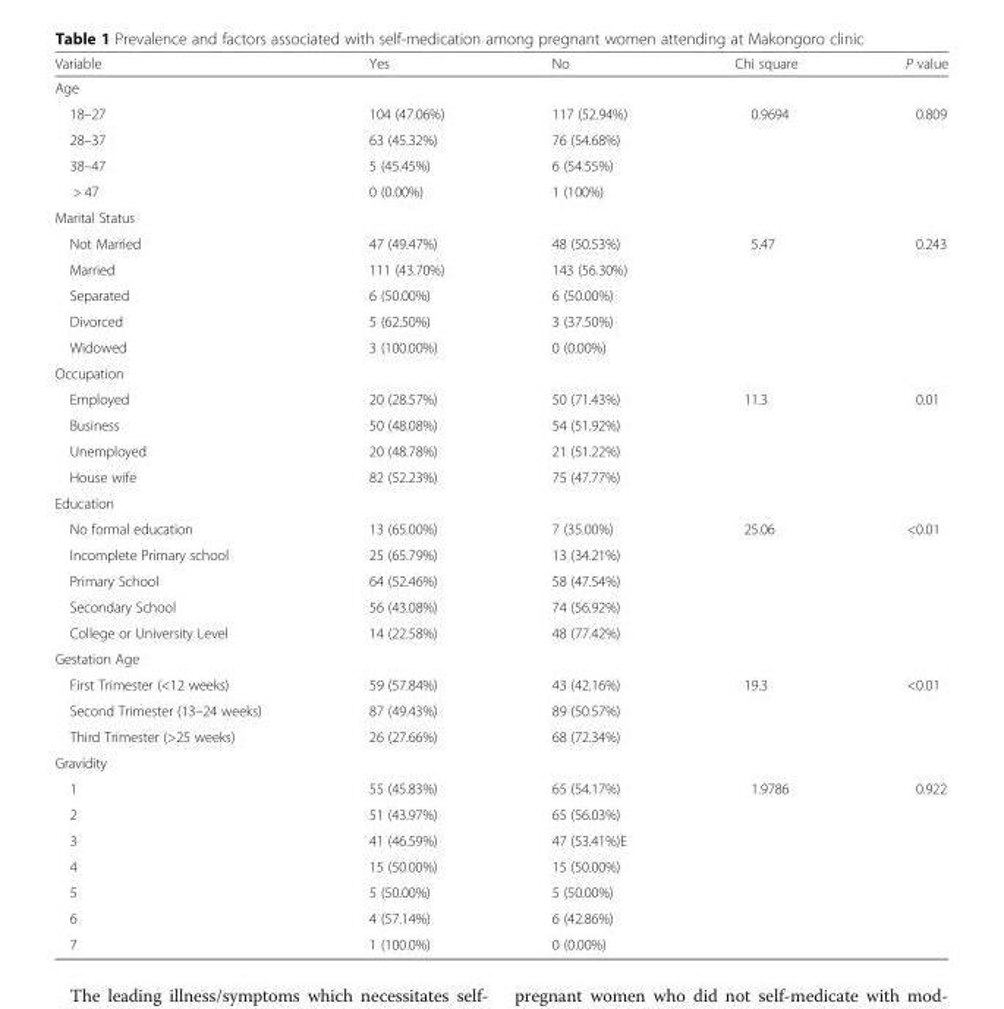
<table><thead><tr><td>Variable</td><td>Yes</td><td>No</td><td>Chi square</td><td>P value</td></tr></thead><tbody><tr><td colspan="5">Age</td></tr><tr><td>18–27</td><td>104 (47.06%)</td><td>117 (52.94%)</td><td rowspan="4">0.9694</td><td rowspan="4">0.809</td></tr><tr><td>28–37</td><td>63 (45.32%)</td><td>76 (54.68%)</td></tr><tr><td>38–47</td><td>5 (45.45%)</td><td>6 (54.55%)</td></tr><tr><td>&gt; 47</td><td>0 (0.00%)</td><td>1 (100%)</td></tr><tr><td colspan="5">Marital Status</td></tr><tr><td>Not Married</td><td>47 (49.47%)</td><td>48 (50.53%)</td><td rowspan="5">5.47</td><td rowspan="5">0.243</td></tr><tr><td>Married</td><td>111 (43.70%)</td><td>143 (56.30%)</td></tr><tr><td>Separated</td><td>6 (50.00%)</td><td>6 (50.00%)</td></tr><tr><td>Divorced</td><td>5 (62.50%)</td><td>3 (37.50%)</td></tr><tr><td>Widowed</td><td>3 (100.00%)</td><td>0 (0.00%)</td></tr><tr><td colspan="5">Occupation</td></tr><tr><td>Employed</td><td>20 (28.57%)</td><td>50 (71.43%)</td><td rowspan="4">11.3</td><td rowspan="4">0.01</td></tr><tr><td>Business</td><td>50 (48.08%)</td><td>54 (51.92%)</td></tr><tr><td>Unemployed</td><td>20 (48.78%)</td><td>21 (51.22%)</td></tr><tr><td>House wife</td><td>82 (52.23%)</td><td>75 (47.77%)</td></tr><tr><td colspan="5">Education</td></tr><tr><td>No formal education</td><td>13 (65.00%)</td><td>7 (35.00%)</td><td rowspan="5">25.06</td><td rowspan="5">&lt;0.01</td></tr><tr><td>Incomplete Primary school</td><td>25 (65.79%)</td><td>13 (34.21%)</td></tr><tr><td>Primary School</td><td>64 (52.46%)</td><td>58 (47.54%)</td></tr><tr><td>Secondary School</td><td>56 (43.08%)</td><td>74 (56.92%)</td></tr><tr><td>College or University Level</td><td>14 (22.58%)</td><td>48 (77.42%)</td></tr><tr><td colspan="5">Gestation Age</td></tr><tr><td>First Trimester (&lt;12 weeks)</td><td>59 (57.84%)</td><td>43 (42.16%)</td><td rowspan="3">19.3</td><td rowspan="3">&lt;0.01</td></tr><tr><td>Second Trimester (13–24 weeks)</td><td>87 (49.43%)</td><td>89 (50.57%)</td></tr><tr><td>Third Trimester (&gt;25 weeks)</td><td>26 (27.66%)</td><td>68 (72.34%)</td></tr><tr><td colspan="5">Gravidity</td></tr><tr><td>1</td><td>55 (45.83%)</td><td>65 (54.17%)</td><td rowspan="7">1.9786</td><td rowspan="7">0.922</td></tr><tr><td>2</td><td>51 (43.97%)</td><td>65 (56.03%)</td></tr><tr><td>3</td><td>41 (46.59%)</td><td>47 (53.41%)E</td></tr><tr><td>4</td><td>15 (50.00%)</td><td>15 (50.00%)</td></tr><tr><td>5</td><td>5 (50.00%)</td><td>5 (50.00%)</td></tr><tr><td>6</td><td>4 (57.14%)</td><td>6 (42.86%)</td></tr><tr><td>7</td><td>1 (100.0%)</td><td>0 (0.00%)</td></tr></tbody></table>